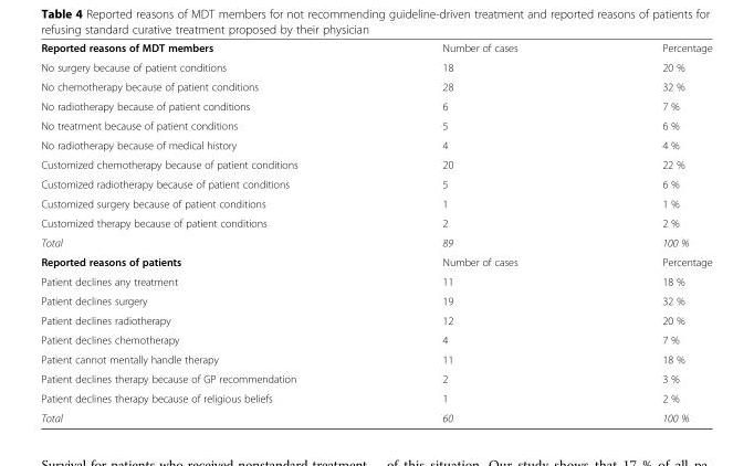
<table><tbody><tr><td>Reported reasons of MDT members</td><td>Number of cases</td><td>Percentage</td></tr><tr><td>No surgery because of patient conditions</td><td>18</td><td>20 %</td></tr><tr><td>No chemotherapy because of patient conditions</td><td>28</td><td>32 %</td></tr><tr><td>No radiotherapy because of patient conditions</td><td>6</td><td>7 %</td></tr><tr><td>No treatment because of patient conditions</td><td>5</td><td>6 %</td></tr><tr><td>No radiotherapy because of medical history</td><td>4</td><td>4 %</td></tr><tr><td>Customized chemotherapy because of patient conditions</td><td>20</td><td>22 %</td></tr><tr><td>Customized radiotherapy because of patient conditions</td><td>5</td><td>6 %</td></tr><tr><td>Customized surgery because of patient conditions</td><td>1</td><td>1 %</td></tr><tr><td>Customized therapy because of patient conditions</td><td>2</td><td>2 %</td></tr><tr><td>Total</td><td>89</td><td>100 %</td></tr><tr><td>Reported reasons of patients</td><td>Number of cases</td><td>Percentage</td></tr><tr><td>Patient declines any treatment</td><td>11</td><td>18 %</td></tr><tr><td>Patient declines surgery</td><td>19</td><td>32 %</td></tr><tr><td>Patient declines radiotherapy</td><td>12</td><td>20 %</td></tr><tr><td>Patient declines chemotherapy</td><td>4</td><td>7 %</td></tr><tr><td>Patient cannot mentally handle therapy</td><td>11</td><td>18 %</td></tr><tr><td>Patient declines therapy because of GP recommendation</td><td>2</td><td>3 %</td></tr><tr><td>Patient declines therapy because of religious beliefs</td><td>1</td><td>2 %</td></tr><tr><td>Total</td><td>60</td><td>100 %</td></tr></tbody></table>